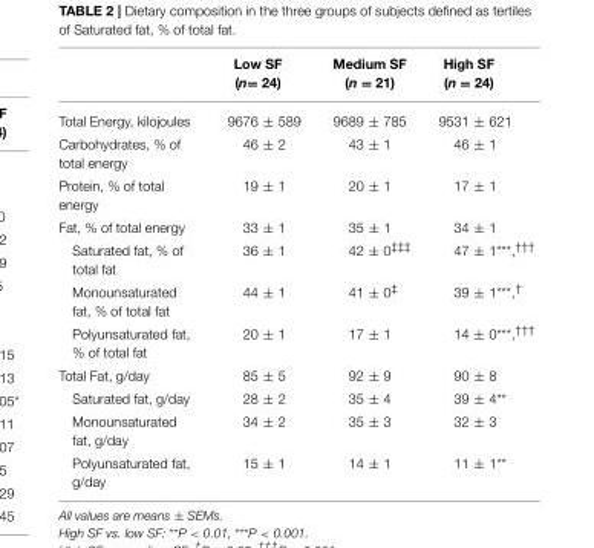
<table><thead><tr><td></td><td>Low SF (n= 24)</td><td>Medium SF (n = 21)</td><td>High SF (n = 24)</td></tr></thead><tbody><tr><td>Total Energy, kilojoules</td><td>9676 ± 589</td><td>9689 ± 785</td><td>9531 ± 621</td></tr><tr><td>Carbohydrates, % of total energy</td><td>46 ± 2</td><td>43 ± 1</td><td>46 ± 1</td></tr><tr><td>Protein, % of total energy</td><td>19 ± 1</td><td>20 ± 1</td><td>17 ± 1</td></tr><tr><td>Fat, % of total energy</td><td>33 ± 1</td><td>35 ± 1</td><td>34 ± 1</td></tr><tr><td>Saturated fat, % of total fat</td><td>36 ± 1</td><td>42 ± 0<sup>‡‡‡</sup></td><td>47 ± 1***,<sup>†††</sup></td></tr><tr><td>Monounsaturated fat, % of total fat</td><td>44 ± 1</td><td>41 ± 0<sup>‡</sup></td><td>39 ± 1***,<sup>†</sup></td></tr><tr><td>Polyunsaturated fat, % of total fat</td><td>20 ± 1</td><td>17 ± 1</td><td>14 ± 0***,<sup>†††</sup></td></tr><tr><td>Total Fat, g/day</td><td>85 ± 5</td><td>92 ± 9</td><td>90 ± 8</td></tr><tr><td>Saturated fat, g/day</td><td>28 ± 2</td><td>35 ± 4</td><td>39 ± 4**</td></tr><tr><td>Monounsaturated fat, g/day</td><td>34 ± 2</td><td>35 ± 3</td><td>32 ± 3</td></tr><tr><td>Polyunsaturated fat, g/day</td><td>15 ± 1</td><td>14 ± 1</td><td>11 ± 1**</td></tr></tbody></table>